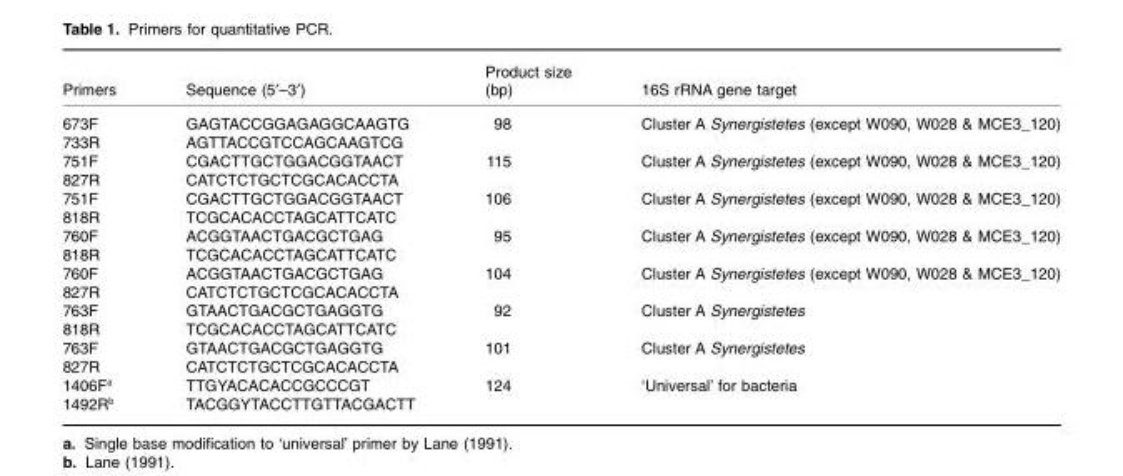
<table><thead><tr><td>Primers</td><td>Sequence (5′–3′)</td><td>Product size (bp)</td><td>16S rRNA gene target</td></tr></thead><tbody><tr><td>673F</td><td>GAGTACCGGAGAGGCAAGTG</td><td>98</td><td>Cluster A Synergistetes (except W090, W028 &amp; MCE3_120)</td></tr><tr><td>733R</td><td>AGTTACCGTCCAGCAAGTCG</td><td></td><td></td></tr><tr><td>751F</td><td>CGACTTGCTGGACGGTAACT</td><td>115</td><td>Cluster A Synergistetes (except W090, W028 &amp; MCE3_120)</td></tr><tr><td>827R</td><td>CATCTCTGCTCGCACACCTA</td><td></td><td></td></tr><tr><td>751F</td><td>CGACTTGCTGGACGGTAACT</td><td>106</td><td>Cluster A Synergistetes (except W090, W028 &amp; MCE3_120)</td></tr><tr><td>818R</td><td>TCGCACACCTAGCATTCATC</td><td></td><td></td></tr><tr><td>760F</td><td>ACGGTAACTGACGCTGAG</td><td>95</td><td>Cluster A Synergistetes (except W090, W028 &amp; MCE3_120)</td></tr><tr><td>818R</td><td>TCGCACACCTAGCATTCATC</td><td></td><td></td></tr><tr><td>760F</td><td>ACGGTAACTGACGCTGAG</td><td>104</td><td>Cluster A Synergistetes (except W090, W028 &amp; MCE3_120)</td></tr><tr><td>827R</td><td>CATCTCTGCTCGCACACCTA</td><td></td><td></td></tr><tr><td>763F</td><td>GTAACTGACGCTGAGGTG</td><td>92</td><td>Cluster A Synergistetes</td></tr><tr><td>818R</td><td>TCGCACACCTAGCATTCATC</td><td></td><td></td></tr><tr><td>763F</td><td>GTAACTGACGCTGAGGTG</td><td>101</td><td>Cluster A Synergistetes</td></tr><tr><td>827R</td><td>CATCTCTGCTCGCACACCTA</td><td></td><td></td></tr><tr><td>1406F<sup>a</sup></td><td>TTGYACACACCGCCCGT</td><td>124</td><td>‘Universal’ for bacteria</td></tr><tr><td>1492R<sup>b</sup></td><td>TACGGYTACCTTGTTACGACTT</td><td></td><td></td></tr></tbody></table>